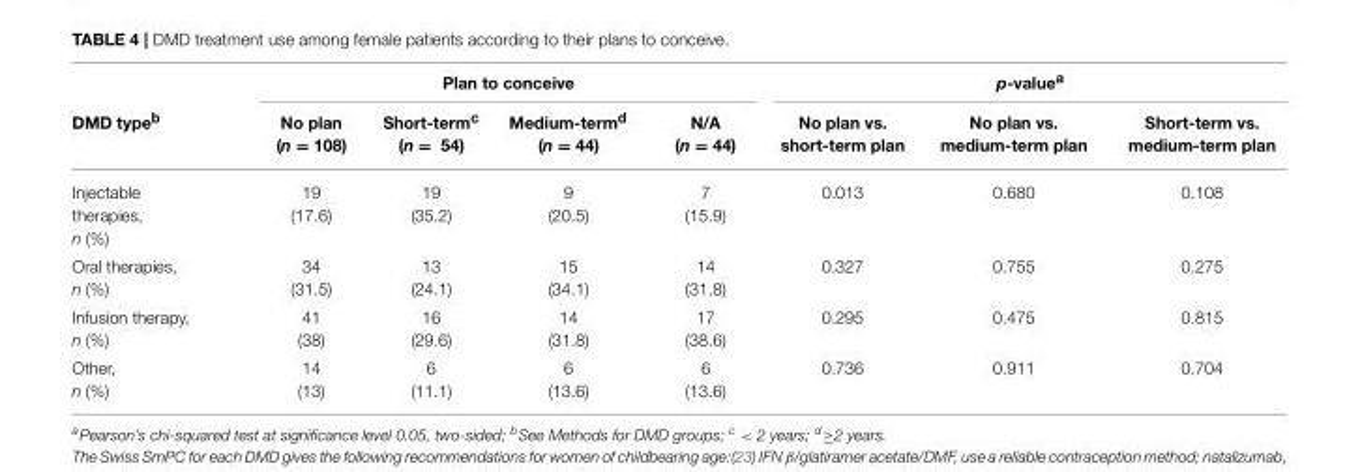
<table><thead><tr><td rowspan="2">DMD type<sup>b</sup></td><td colspan="4">Plan to conceive</td><td colspan="3">p-value<sup>a</sup></td></tr><tr><td>No plan (n = 108)</td><td>Short-term<sup>c</sup> (n = 54)</td><td>Medium-term<sup>d</sup> (n = 44)</td><td>N/A (n = 44)</td><td>No plan vs. short-term plan</td><td>No plan vs. medium-term plan</td><td>Short-term vs. medium-term plan</td></tr></thead><tbody><tr><td>Injectable therapies, n (%)</td><td>19 (17.6)</td><td>19 (35.2)</td><td>9 (20.5)</td><td>7 (15.9)</td><td>0.013</td><td>0.680</td><td>0.108</td></tr><tr><td>Oral therapies, n (%)</td><td>34 (31.5)</td><td>13 (24.1)</td><td>15 (34.1)</td><td>14 (31.8)</td><td>0.327</td><td>0.755</td><td>0.275</td></tr><tr><td>Infusion therapy, n (%)</td><td>41 (38)</td><td>16 (29.6)</td><td>14 (31.8)</td><td>17 (38.6)</td><td>0.295</td><td>0.475</td><td>0.815</td></tr><tr><td>Other, n (%)</td><td>14 (13)</td><td>6 (11.1)</td><td>6 (13.6)</td><td>6 (13.6)</td><td>0.736</td><td>0.911</td><td>0.704</td></tr></tbody></table>